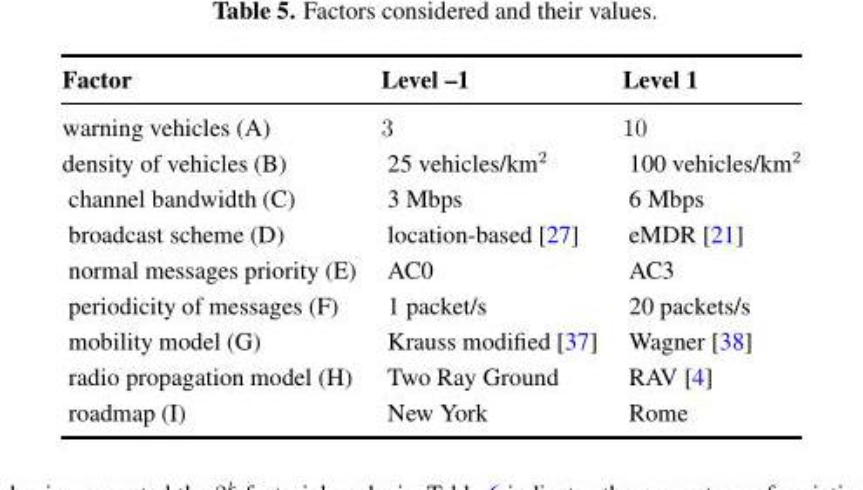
<table><thead><tr><td>Factor</td><td>Level –1</td><td>Level 1</td></tr></thead><tbody><tr><td>warning vehicles (A)</td><td>3</td><td>10</td></tr><tr><td>density of vehicles (B)</td><td>25 vehicles/km<sup>2</sup></td><td>100 vehicles/km<sup>2</sup></td></tr><tr><td>channel bandwidth (C)</td><td>3 Mbps</td><td>6 Mbps</td></tr><tr><td>broadcast scheme (D)</td><td>location-based [27]</td><td>eMDR [21]</td></tr><tr><td>normal messages priority (E)</td><td>AC0</td><td>AC3</td></tr><tr><td>periodicity of messages (F)</td><td>1 packet/s</td><td>20 packets/s</td></tr><tr><td>mobility model (G)</td><td>Krauss modified [37]</td><td>Wagner [38]</td></tr><tr><td>radio propagation model (H)</td><td>Two Ray Ground</td><td>RAV [4]</td></tr><tr><td>roadmap (I)</td><td>New York</td><td>Rome</td></tr></tbody></table>